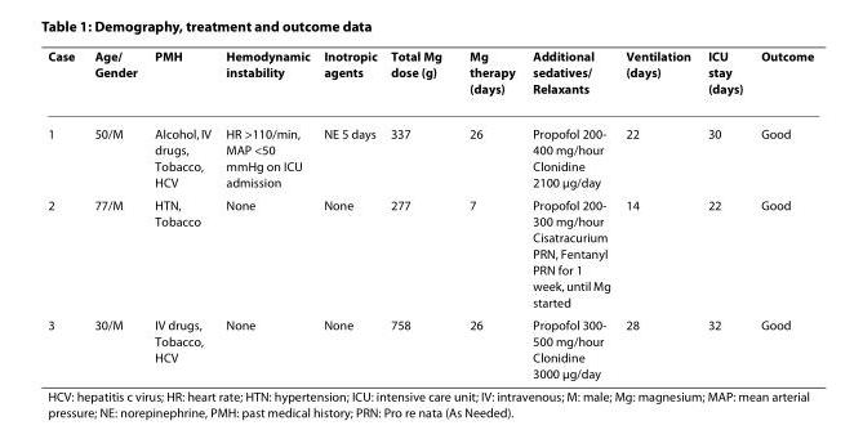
<table><thead><tr><td>Case</td><td>Age/ Gender</td><td>PMH</td><td>Hemodynamic instability</td><td>Inotropic agents</td><td>Total Mg dose (g)</td><td>Mg therapy (days)</td><td>Additional sedatives/ Relaxants</td><td>Ventilation (days)</td><td>ICU stay (days)</td><td>Outcome</td></tr></thead><tbody><tr><td>1</td><td>50/M</td><td>Alcohol, IV drugs, Tobacco, HCV</td><td>HR &gt;110/min, MAP &lt;50 mmHg on ICU admission</td><td>NE 5 days</td><td>337</td><td>26</td><td>Propofol 200- 400 mg/hour Clonidine 2100 μg/day</td><td>22</td><td>30</td><td>Good</td></tr><tr><td>2</td><td>77/M</td><td>HTN, Tobacco</td><td>None</td><td>None</td><td>277</td><td>7</td><td>Propofol 200- 300 mg/hour Cisatracurium PRN, Fentanyl PRN for 1 week, until Mg started</td><td>14</td><td>22</td><td>Good</td></tr><tr><td>3</td><td>30/M</td><td>IV drugs, Tobacco, HCV</td><td>None</td><td>None</td><td>758</td><td>26</td><td>Propofol 300- 500 mg/hour Clonidine 3000 μg/day</td><td>28</td><td>32</td><td>Good</td></tr></tbody></table>